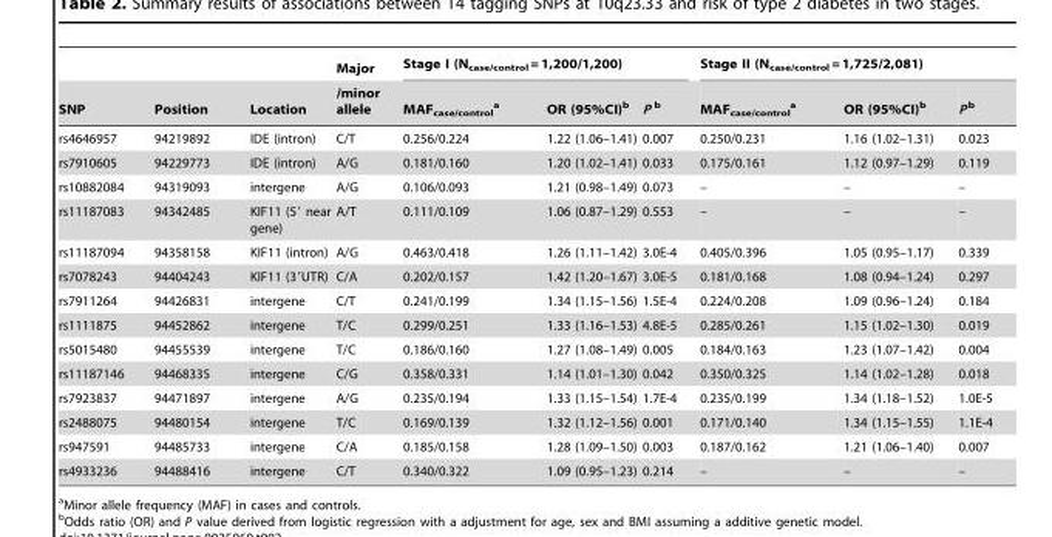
<table><thead><tr><td rowspan="2">SNP</td><td rowspan="2">Position</td><td rowspan="2">Location</td><td rowspan="2">Major /minor allele</td><td colspan="3">Stage I (N<sub>case/control</sub> = 1,200/1,200)</td><td colspan="3">Stage II (N<sub>case/control</sub> = 1,725/2,081)</td></tr><tr><td>MAF<sub>case/control</sub> a</td><td>OR (95%CI)<sup>b</sup></td><td>P b</td><td>MAF<sub>case/control</sub> a</td><td>OR (95%CI)<sup>b</sup></td><td>P b</td></tr></thead><tbody><tr><td>rs4646957</td><td>94219892</td><td>IDE (intron)</td><td>C/T</td><td>0.256/0.224</td><td>1.22 (1.06–1.41)</td><td>0.007</td><td>0.250/0.231</td><td>1.16 (1.02–1.31)</td><td>0.023</td></tr><tr><td>rs7910605</td><td>94229773</td><td>IDE (intron)</td><td>A/G</td><td>0.181/0.160</td><td>1.20 (1.02–1.41)</td><td>0.033</td><td>0.175/0.161</td><td>1.12 (0.97–1.29)</td><td>0.119</td></tr><tr><td>rs10882084</td><td>94319093</td><td>intergene</td><td>A/G</td><td>0.106/0.093</td><td>1.21 (0.98–1.49)</td><td>0.073</td><td>–</td><td>–</td><td>–</td></tr><tr><td>rs11187083</td><td>94342485</td><td>KIF11 (5′ near gene)</td><td>A/T</td><td>0.111/0.109</td><td>1.06 (0.87–1.29)</td><td>0.553</td><td>–</td><td>–</td><td>–</td></tr><tr><td>rs11187094</td><td>94358158</td><td>KIF11 (intron)</td><td>A/G</td><td>0.463/0.418</td><td>1.26 (1.11–1.42)</td><td>3.0E-4</td><td>0.405/0.396</td><td>1.05 (0.95–1.17)</td><td>0.339</td></tr><tr><td>rs7078243</td><td>94404243</td><td>KIF11 (3′UTR)</td><td>C/A</td><td>0.202/0.157</td><td>1.42 (1.20–1.67)</td><td>3.0E-5</td><td>0.181/0.168</td><td>1.08 (0.94–1.24)</td><td>0.297</td></tr><tr><td>rs7911264</td><td>94426831</td><td>intergene</td><td>C/T</td><td>0.241/0.199</td><td>1.34 (1.15–1.56)</td><td>1.5E-4</td><td>0.224/0.208</td><td>1.09 (0.96–1.24)</td><td>0.184</td></tr><tr><td>rs1111875</td><td>94452862</td><td>intergene</td><td>T/C</td><td>0.299/0.251</td><td>1.33 (1.16–1.53)</td><td>4.8E-5</td><td>0.285/0.261</td><td>1.15 (1.02–1.30)</td><td>0.019</td></tr><tr><td>rs5015480</td><td>94455539</td><td>intergene</td><td>T/C</td><td>0.186/0.160</td><td>1.27 (1.08–1.49)</td><td>0.005</td><td>0.184/0.163</td><td>1.23 (1.07–1.42)</td><td>0.004</td></tr><tr><td>rs11187146</td><td>94468335</td><td>intergene</td><td>C/G</td><td>0.358/0.331</td><td>1.14 (1.01–1.30)</td><td>0.042</td><td>0.350/0.325</td><td>1.14 (1.02–1.28)</td><td>0.018</td></tr><tr><td>rs7923837</td><td>94471897</td><td>intergene</td><td>A/G</td><td>0.235/0.194</td><td>1.33 (1.15–1.54)</td><td>1.7E-4</td><td>0.235/0.199</td><td>1.34 (1.18–1.52)</td><td>1.0E-5</td></tr><tr><td>rs2488075</td><td>94480154</td><td>intergene</td><td>T/C</td><td>0.169/0.139</td><td>1.32 (1.12–1.56)</td><td>0.001</td><td>0.171/0.140</td><td>1.34 (1.15–1.55)</td><td>1.1E-4</td></tr><tr><td>rs947591</td><td>94485733</td><td>intergene</td><td>C/A</td><td>0.185/0.158</td><td>1.28 (1.09–1.50)</td><td>0.003</td><td>0.187/0.162</td><td>1.21 (1.06–1.40)</td><td>0.007</td></tr><tr><td>rs4933236</td><td>94488416</td><td>intergene</td><td>C/T</td><td>0.340/0.322</td><td>1.09 (0.95–1.23)</td><td>0.214</td><td>–</td><td>–</td><td>–</td></tr></tbody></table>